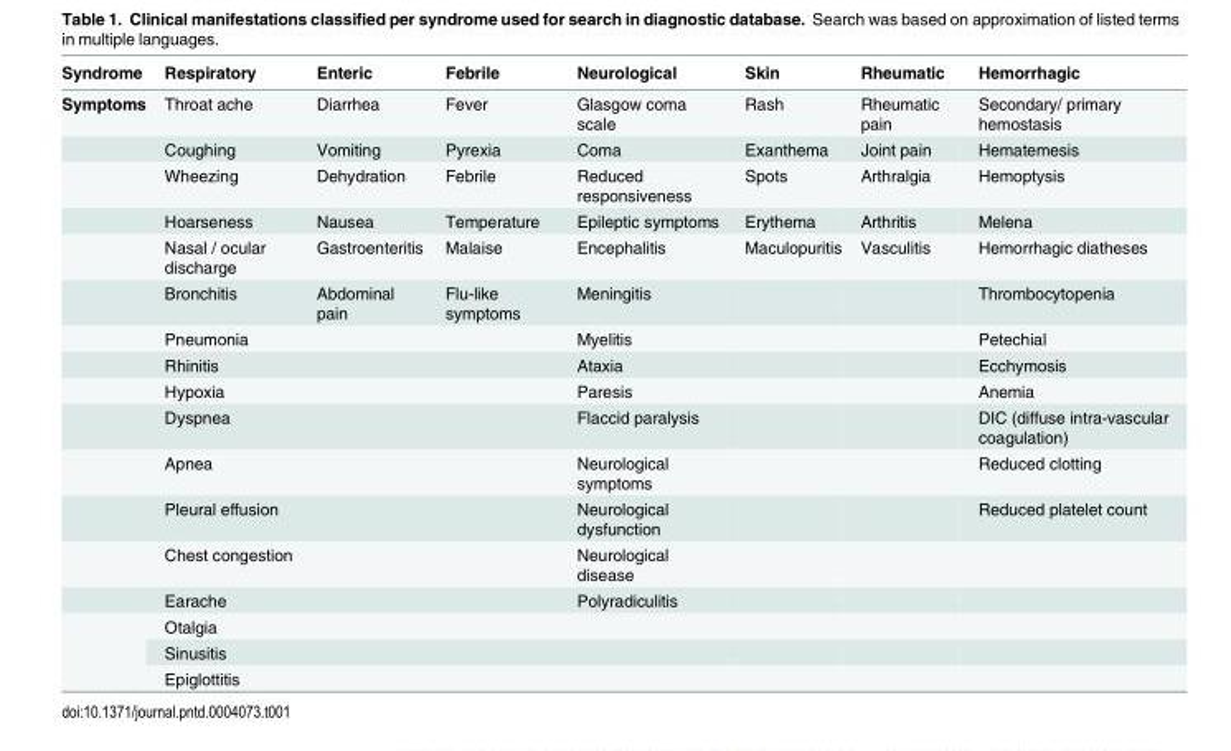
<table><thead><tr><td>Syndrome</td><td>Respiratory</td><td>Enteric</td><td>Febrile</td><td>Neurological</td><td>Skin</td><td>Rheumatic</td><td>Hemorrhagic</td></tr></thead><tbody><tr><td rowspan="17">Symptoms</td><td>Throat ache</td><td>Diarrhea</td><td>Fever</td><td>Glasgow coma scale</td><td>Rash</td><td>Rheumatic pain</td><td>Secondary/ primary hemostasis</td></tr><tr><td>Coughing</td><td>Vomiting</td><td>Pyrexia</td><td>Coma</td><td>Exanthema</td><td>Joint pain</td><td>Hematemesis</td></tr><tr><td>Wheezing</td><td>Dehydration</td><td>Febrile</td><td>Reduced responsiveness</td><td>Spots</td><td>Arthralgia</td><td>Hemoptysis</td></tr><tr><td>Hoarseness</td><td>Nausea</td><td>Temperature</td><td>Epileptic symptoms</td><td>Erythema</td><td>Arthritis</td><td>Melena</td></tr><tr><td>Nasal / ocular discharge</td><td>Gastroenteritis</td><td>Malaise</td><td>Encephalitis</td><td>Maculopuritis</td><td>Vasculitis</td><td>Hemorrhagic diatheses</td></tr><tr><td>Bronchitis</td><td>Abdominal pain</td><td>Flu-like symptoms</td><td>Meningitis</td><td></td><td></td><td>Thrombocytopenia</td></tr><tr><td>Pneumonia</td><td></td><td></td><td>Myelitis</td><td></td><td></td><td>Petechial</td></tr><tr><td>Rhinitis</td><td></td><td></td><td>Ataxia</td><td></td><td></td><td>Ecchymosis</td></tr><tr><td>Hypoxia</td><td></td><td></td><td>Paresis</td><td></td><td></td><td>Anemia</td></tr><tr><td>Dyspnea</td><td></td><td></td><td>Flaccid paralysis</td><td></td><td></td><td>DIC (diffuse intra-vascular coagulation)</td></tr><tr><td>Apnea</td><td></td><td></td><td>Neurological symptoms</td><td></td><td></td><td>Reduced clotting</td></tr><tr><td>Pleural effusion</td><td></td><td></td><td>Neurological dysfunction</td><td></td><td></td><td>Reduced platelet count</td></tr><tr><td>Chest congestion</td><td></td><td></td><td>Neurological disease</td><td></td><td></td><td></td></tr><tr><td>Earache</td><td></td><td></td><td>Polyradiculitis</td><td></td><td></td><td></td></tr><tr><td>Otalgia</td><td></td><td></td><td></td><td></td><td></td><td></td></tr><tr><td>Sinusitis</td><td></td><td></td><td></td><td></td><td></td><td></td></tr><tr><td>Epiglottitis</td><td></td><td></td><td></td><td></td><td></td><td></td></tr></tbody></table>